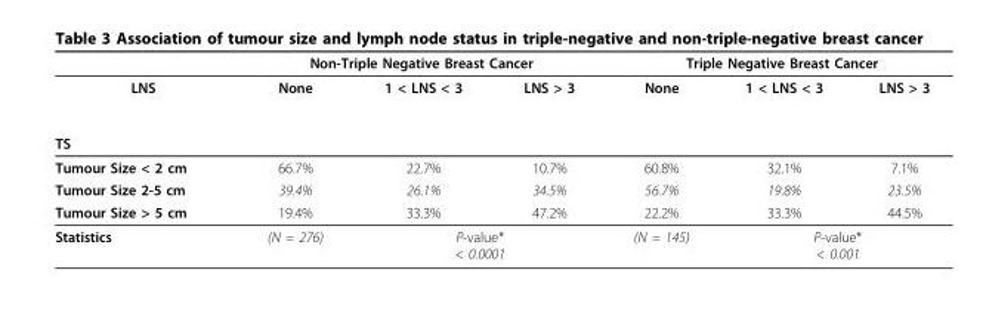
<table><thead><tr><td rowspan="2">LNS</td><td colspan="3">Non-Triple Negative Breast Cancer</td><td colspan="3">Triple Negative Breast Cancer</td></tr><tr><td>None</td><td>1 &lt; LNS &lt; 3</td><td>LNS &gt; 3</td><td>None</td><td>1 &lt; LNS &lt; 3</td><td>LNS &gt; 3</td></tr></thead><tbody><tr><td colspan="7">TS</td></tr><tr><td>Tumour Size &lt; 2 cm</td><td>66.7%</td><td>22.7%</td><td>10.7%</td><td>60.8%</td><td>32.1%</td><td>7.1%</td></tr><tr><td>Tumour Size 2-5 cm</td><td>39.4%</td><td>26.1%</td><td>34.5%</td><td>56.7%</td><td>19.8%</td><td>23.5%</td></tr><tr><td>Tumour Size &gt; 5 cm</td><td>19.4%</td><td>33.3%</td><td>47.2%</td><td>22.2%</td><td>33.3%</td><td>44.5%</td></tr><tr><td>Statistics</td><td>(N = 276)</td><td colspan="2">P-value* &lt; 0.0001</td><td>(N = 145)</td><td colspan="2">P-value* &lt; 0.001</td></tr></tbody></table>